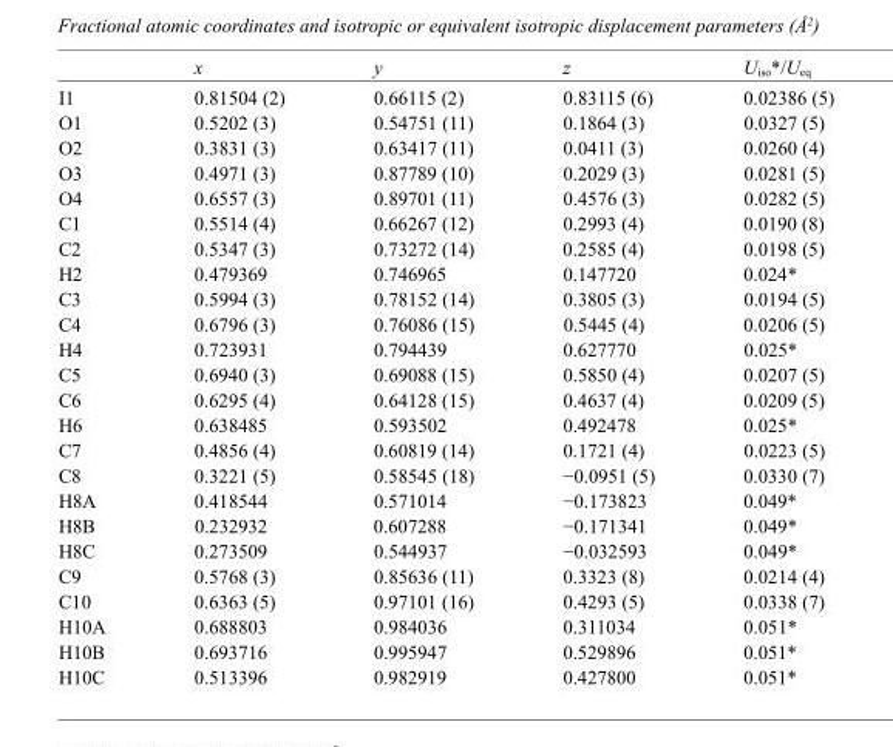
<table><thead><tr><td></td><td>x</td><td>y</td><td>z</td><td>U<sub>iso</sub>*/U<sub>eq</sub></td></tr></thead><tbody><tr><td>I1</td><td>0.81504 (2)</td><td>0.66115 (2)</td><td>0.83115 (6)</td><td>0.02386 (5)</td></tr><tr><td>O1</td><td>0.5202 (3)</td><td>0.54751 (11)</td><td>0.1864 (3)</td><td>0.0327 (5)</td></tr><tr><td>O2</td><td>0.3831 (3)</td><td>0.63417 (11)</td><td>0.0411 (3)</td><td>0.0260 (4)</td></tr><tr><td>O3</td><td>0.4971 (3)</td><td>0.87789 (10)</td><td>0.2029 (3)</td><td>0.0281 (5)</td></tr><tr><td>O4</td><td>0.6557 (3)</td><td>0.89701 (11)</td><td>0.4576 (3)</td><td>0.0282 (5)</td></tr><tr><td>C1</td><td>0.5514 (4)</td><td>0.66267 (12)</td><td>0.2993 (4)</td><td>0.0190 (8)</td></tr><tr><td>C2</td><td>0.5347 (3)</td><td>0.73272 (14)</td><td>0.2585 (4)</td><td>0.0198 (5)</td></tr><tr><td>H2</td><td>0.479369</td><td>0.746965</td><td>0.147720</td><td>0.024*</td></tr><tr><td>C3</td><td>0.5994 (3)</td><td>0.78152 (14)</td><td>0.3805 (3)</td><td>0.0194 (5)</td></tr><tr><td>C4</td><td>0.6796 (3)</td><td>0.76086 (15)</td><td>0.5445 (4)</td><td>0.0206 (5)</td></tr><tr><td>H4</td><td>0.723931</td><td>0.794439</td><td>0.627770</td><td>0.025*</td></tr><tr><td>C5</td><td>0.6940 (3)</td><td>0.69088 (15)</td><td>0.5850 (4)</td><td>0.0207 (5)</td></tr><tr><td>C6</td><td>0.6295 (4)</td><td>0.64128 (15)</td><td>0.4637 (4)</td><td>0.0209 (5)</td></tr><tr><td>H6</td><td>0.638485</td><td>0.593502</td><td>0.492478</td><td>0.025*</td></tr><tr><td>C7</td><td>0.4856 (4)</td><td>0.60819 (14)</td><td>0.1721 (4)</td><td>0.0223 (5)</td></tr><tr><td>C8</td><td>0.3221 (5)</td><td>0.58545 (18)</td><td>−0.0951 (5)</td><td>0.0330 (7)</td></tr><tr><td>H8A</td><td>0.418544</td><td>0.571014</td><td>−0.173823</td><td>0.049*</td></tr><tr><td>H8B</td><td>0.232932</td><td>0.607288</td><td>−0.171341</td><td>0.049*</td></tr><tr><td>H8C</td><td>0.273509</td><td>0.544937</td><td>−0.032593</td><td>0.049*</td></tr><tr><td>C9</td><td>0.5768 (3)</td><td>0.85636 (11)</td><td>0.3323 (8)</td><td>0.0214 (4)</td></tr><tr><td>C10</td><td>0.6363 (5)</td><td>0.97101 (16)</td><td>0.4293 (5)</td><td>0.0338 (7)</td></tr><tr><td>H10A</td><td>0.688803</td><td>0.984036</td><td>0.311034</td><td>0.051*</td></tr><tr><td>H10B</td><td>0.693716</td><td>0.995947</td><td>0.529896</td><td>0.051*</td></tr><tr><td>H10C</td><td>0.513396</td><td>0.982919</td><td>0.427800</td><td>0.051*</td></tr></tbody></table>